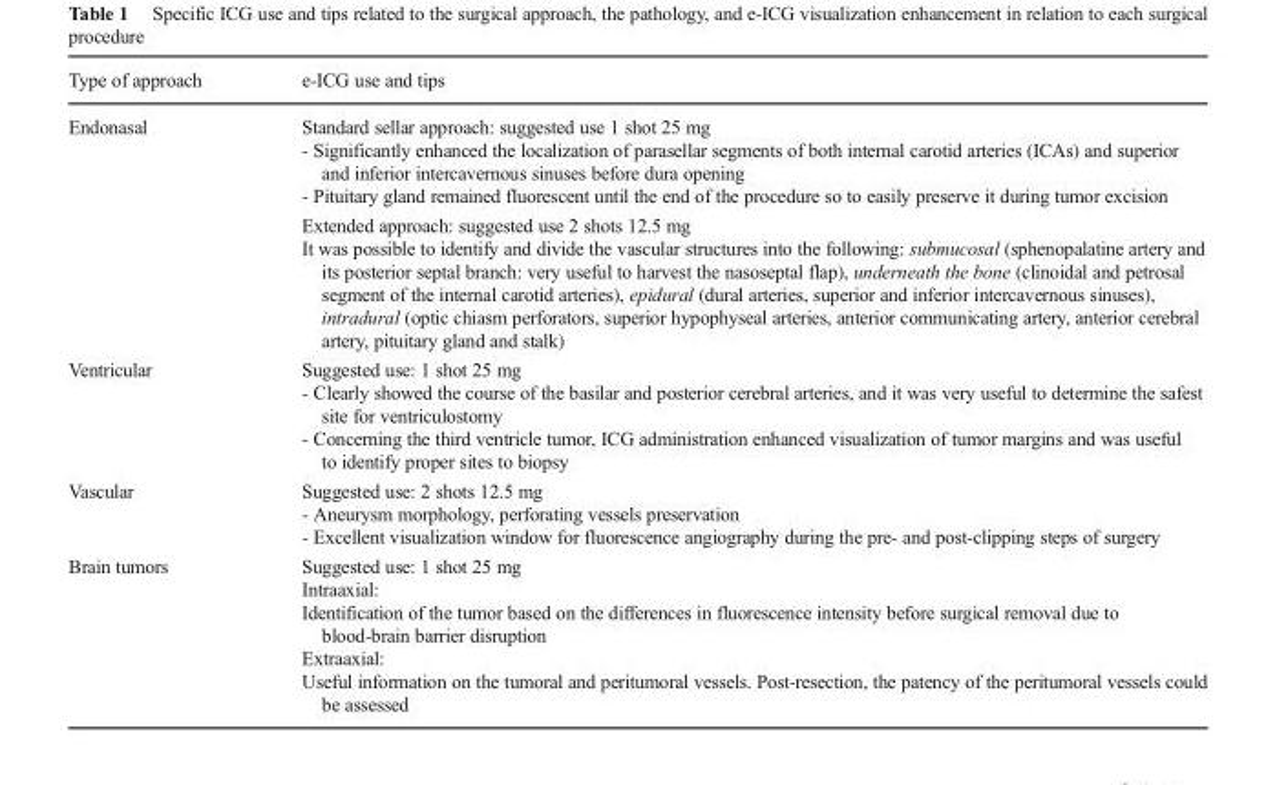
<table><thead><tr><td>Type of approach</td><td>e-ICG use and tips</td></tr></thead><tbody><tr><td rowspan="2">Endonasal</td><td>Standard sellar approach: suggested use 1 shot 25 mg - Significantly enhanced the localization of parasellar segments of both internal carotid arteries (ICAs) and superior and inferior intercavernous sinuses before dura opening - Pituitary gland remained fluorescent until the end of the procedure so to easily preserve it during tumor excision</td></tr><tr><td>Extended approach: suggested use 2 shots 12.5 mg It was possible to identify and divide the vascular structures into the following: submucosal (sphenopalatine artery and its posterior septal branch: very useful to harvest the nasoseptal flap), underneath the bone (clinoidal and petrosal segment of the internal carotid arteries), epidural (dural arteries, superior and inferior intercavernous sinuses), intradural (optic chiasm perforators, superior hypophyseal arteries, anterior communicating artery, anterior cerebral artery, pituitary gland and stalk)</td></tr><tr><td>Ventricular</td><td>Suggested use: 1 shot 25 mg - Clearly showed the course of the basilar and posterior cerebral arteries, and it was very useful to determine the safest site for ventriculostomy - Concerning the third ventricle tumor, ICG administration enhanced visualization of tumor margins and was useful to identify proper sites to biopsy</td></tr><tr><td>Vascular</td><td>Suggested use: 2 shots 12.5 mg - Aneurysm morphology, perforating vessels preservation - Excellent visualization window for fluorescence angiography during the pre- and post-clipping steps of surgery</td></tr><tr><td>Brain tumors</td><td>Suggested use: 1 shot 25 mg Intraaxial: Identification of the tumor based on the differences in fluorescence intensity before surgical removal due to blood-brain barrier disruption Extraaxial: Useful information on the tumoral and peritumoral vessels. Post-resection, the patency of the peritumoral vessels could be assessed</td></tr></tbody></table>